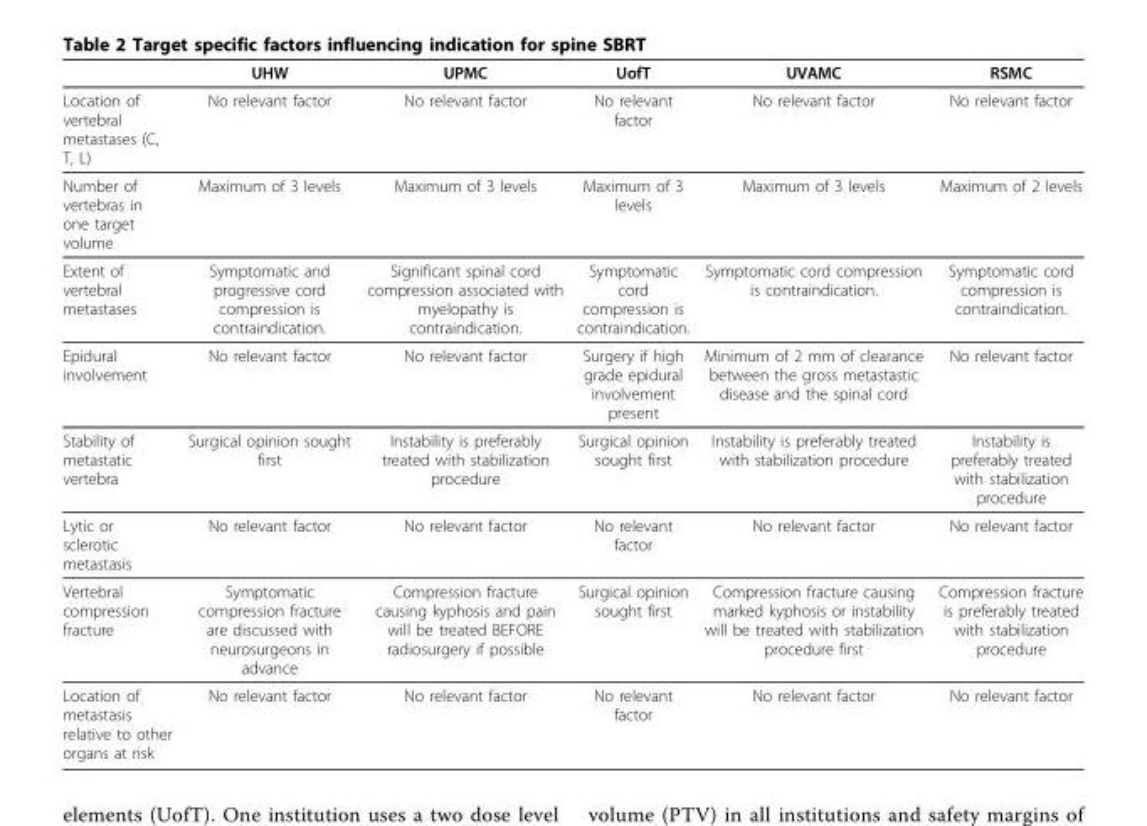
<table><thead><tr><td></td><td>UHW</td><td>UPMC</td><td>UofT</td><td>UVAMC</td><td>RSMC</td></tr></thead><tbody><tr><td>Location of vertebral metastases (C, T, L)</td><td>No relevant factor</td><td>No relevant factor</td><td>No relevant factor</td><td>No relevant factor</td><td>No relevant factor</td></tr><tr><td>Number of vertebras in one target volume</td><td>Maximum of 3 levels</td><td>Maximum of 3 levels</td><td>Maximum of 3 levels</td><td>Maximum of 3 levels</td><td>Maximum of 2 levels</td></tr><tr><td>Extent of vertebral metastases</td><td>Symptomatic and progressive cord compression is contraindication.</td><td>Significant spinal cord compression associated with myelopathy is contraindication.</td><td>Symptomatic cord compression is contraindication.</td><td>Symptomatic cord compression is contraindication.</td><td>Symptomatic cord compression is contraindication.</td></tr><tr><td>Epidural involvement</td><td>No relevant factor</td><td>No relevant factor</td><td>Surgery if high grade epidural involvement present</td><td>Minimum of 2 mm of clearance between the gross metastastic disease and the spinal cord</td><td>No relevant factor</td></tr><tr><td>Stability of metastatic vertebra</td><td>Surgical opinion sought first</td><td>Instability is preferably treated with stabilization procedure</td><td>Surgical opinion sought first</td><td>Instability is preferably treated with stabilization procedure</td><td>Instability is preferably treated with stabilization procedure</td></tr><tr><td>Lytic or sclerotic metastasis</td><td>No relevant factor</td><td>No relevant factor</td><td>No relevant factor</td><td>No relevant factor</td><td>No relevant factor</td></tr><tr><td>Vertebral compression fracture</td><td>Symptomatic compression fracture are discussed with neurosurgeons in advance</td><td>Compression fracture causing kyphosis and pain will be treated BEFORE radiosurgery if possible</td><td>Surgical opinion sought first</td><td>Compression fracture causing marked kyphosis or instability will be treated with stabilization procedure first</td><td>Compression fracture is preferably treated with stabilization procedure</td></tr><tr><td>Location of metastasis relative to other organs at risk</td><td>No relevant factor</td><td>No relevant factor</td><td>No relevant factor</td><td>No relevant factor</td><td>No relevant factor</td></tr></tbody></table>